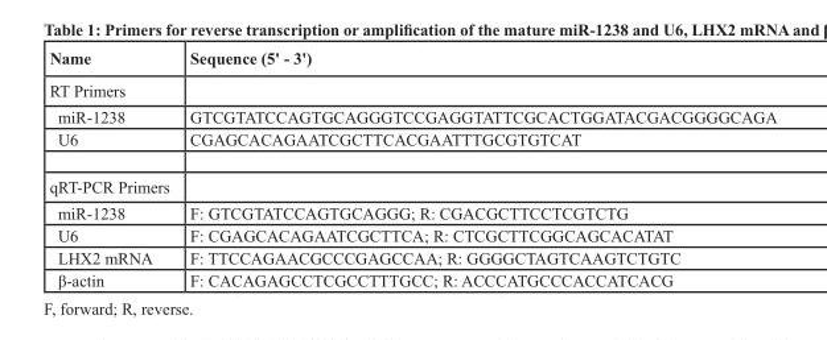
<table><thead><tr><td>Name</td><td>Sequence (5&#x27; - 3&#x27;)</td></tr></thead><tbody><tr><td colspan="2">RT Primers</td></tr><tr><td>miR-1238</td><td>GTCGTATCCAGTGCAGGGTCCGAGGTATTCGCACTGGATACGACGGGGCAGA</td></tr><tr><td>U6</td><td>CGAGCACAGAATCGCTTCACGAATTTGCGTGTCAT</td></tr><tr><td colspan="2">qRT-PCR Primers</td></tr><tr><td>miR-1238</td><td>F: GTCGTATCCAGTGCAGGG; R: CGACGCTTCCTCGTCTG</td></tr><tr><td>U6</td><td>F: CGAGCACAGAATCGCTTCA; R: CTCGCTTCGGCAGCACATAT</td></tr><tr><td>LHX2 mRNA</td><td>F: TTCCAGAACGCCCGAGCCAA; R: GGGGCTAGTCAAGTCTGTC</td></tr><tr><td>β-actin</td><td>F: CACAGAGCCTCGCCTTTGCC; R: ACCCATGCCCACCATCACG</td></tr></tbody></table>